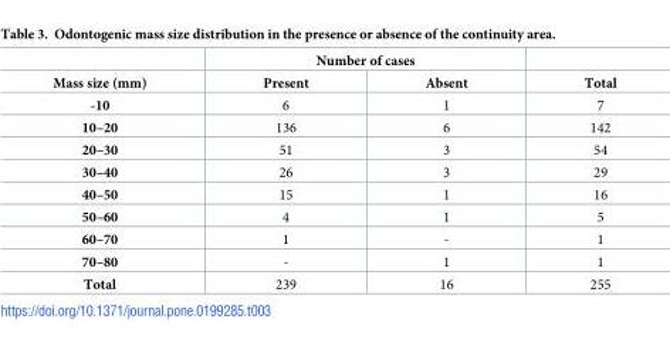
<table><thead><tr><td rowspan="2">Mass size (mm)</td><td colspan="2">Number of cases</td><td rowspan="2">Total</td></tr><tr><td>Present</td><td>Absent</td></tr></thead><tbody><tr><td>-10</td><td>6</td><td>1</td><td>7</td></tr><tr><td>10–20</td><td>136</td><td>6</td><td>142</td></tr><tr><td>20–30</td><td>51</td><td>3</td><td>54</td></tr><tr><td>30–40</td><td>26</td><td>3</td><td>29</td></tr><tr><td>40–50</td><td>15</td><td>1</td><td>16</td></tr><tr><td>50–60</td><td>4</td><td>1</td><td>5</td></tr><tr><td>60–70</td><td>1</td><td>-</td><td>1</td></tr><tr><td>70–80</td><td>-</td><td>1</td><td>1</td></tr><tr><td>Total</td><td>239</td><td>16</td><td>255</td></tr></tbody></table>